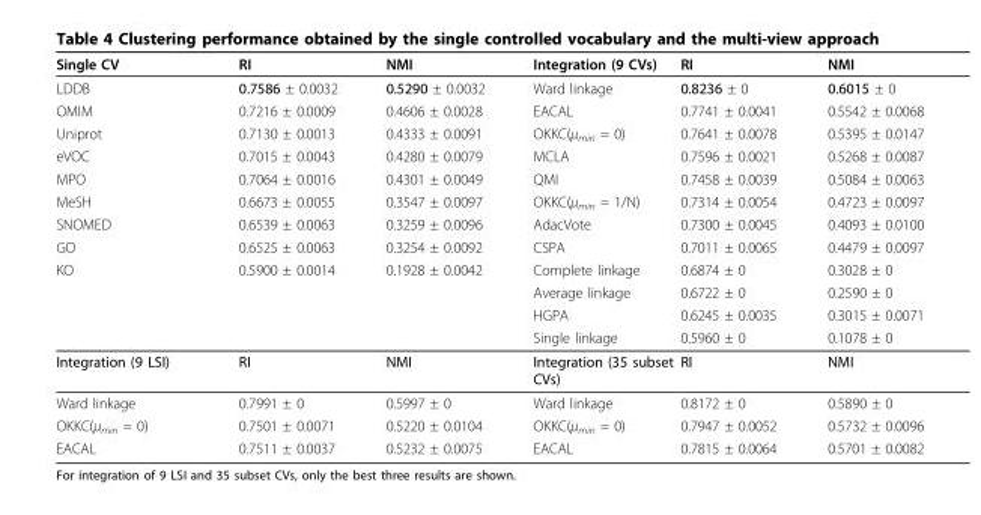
<table><thead><tr><td>Single CV</td><td>RI</td><td>NMI</td><td>Integration (9 CVs)</td><td>RI</td><td>NMI</td></tr></thead><tbody><tr><td>LDDB</td><td>0.7586 ± 0.0032</td><td>0.5290 ± 0.0032</td><td>Ward linkage</td><td>0.8236 ± 0</td><td>0.6015 ± 0</td></tr><tr><td>OMIM</td><td>0.7216 ± 0.0009</td><td>0.4606 ± 0.0028</td><td>EACAL</td><td>0.7741 ± 0.0041</td><td>0.5542 ± 0.0068</td></tr><tr><td>Uniprot</td><td>0.7130 ± 0.0013</td><td>0.4333 ± 0.0091</td><td>OKKC(μ<sub>min</sub> = 0)</td><td>0.7641 ± 0.0078</td><td>0.5395 ± 0.0147</td></tr><tr><td>eVOC</td><td>0.7015 ± 0.0043</td><td>0.4280 ± 0.0079</td><td>MCLA</td><td>0.7596 ± 0.0021</td><td>0.5268 ± 0.0087</td></tr><tr><td>MPO</td><td>0.7064 ± 0.0016</td><td>0.4301 ± 0.0049</td><td>QMI</td><td>0.7458 ± 0.0039</td><td>0.5084 ± 0.0063</td></tr><tr><td>MeSH</td><td>0.6673 ± 0.0055</td><td>0.3547 ± 0.0097</td><td>OKKC(μ<sub>min</sub> = 1/N)</td><td>0.7314 ± 0.0054</td><td>0.4723 ± 0.0097</td></tr><tr><td>SNOMED</td><td>0.6539 ± 0.0063</td><td>0.3259 ± 0.0096</td><td>AdacVote</td><td>0.7300 ± 0.0045</td><td>0.4093 ± 0.0100</td></tr><tr><td>GO</td><td>0.6525 ± 0.0063</td><td>0.3254 ± 0.0092</td><td>CSPA</td><td>0.7011 ± 0.0065</td><td>0.4479 ± 0.0097</td></tr><tr><td rowspan="4">KO</td><td>0.5900 ± 0.0014</td><td>0.1928 ± 0.0042</td><td>Complete linkage</td><td>0.6874 ± 0</td><td>0.3028 ± 0</td></tr><tr><td></td><td></td><td>Average linkage</td><td>0.6722 ± 0</td><td>0.2590 ± 0</td></tr><tr><td></td><td></td><td>HGPA</td><td>0.6245 ± 0.0035</td><td>0.3015 ± 0.0071</td></tr><tr><td></td><td></td><td>Single linkage</td><td>0.5960 ± 0</td><td>0.1078 ± 0</td></tr><tr><td>Integration (9 LSI)</td><td>RI</td><td>NMI</td><td>Integration (35 subset CVs)</td><td>RI</td><td>NMI</td></tr><tr><td>Ward linkage</td><td>0.7991 ± 0</td><td>0.5997 ± 0</td><td>Ward linkage</td><td>0.8172 ± 0</td><td>0.5890 ± 0</td></tr><tr><td>OKKC(μ<sub>min</sub> = 0)</td><td>0.7501 ± 0.0071</td><td>0.5220 ± 0.0104</td><td>OKKC(μ<sub>min</sub> = 0)</td><td>0.7947 ± 0.0052</td><td>0.5732 ± 0.0096</td></tr><tr><td>EACAL</td><td>0.7511 ± 0.0037</td><td>0.5232 ± 0.0075</td><td>EACAL</td><td>0.7815 ± 0.0064</td><td>0.5701 ± 0.0082</td></tr></tbody></table>